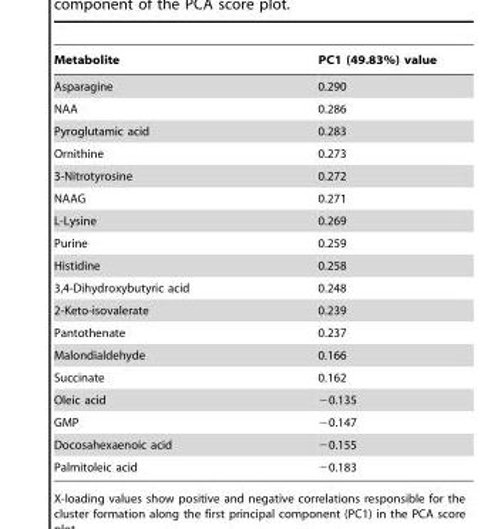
<table><thead><tr><td>Metabolite</td><td>PC1 (49.83%) value</td></tr></thead><tbody><tr><td>Asparagine</td><td>0.290</td></tr><tr><td>NAA</td><td>0.286</td></tr><tr><td>Pyroglutamic acid</td><td>0.283</td></tr><tr><td>Ornithine</td><td>0.273</td></tr><tr><td>3-Nitrotyrosine</td><td>0.272</td></tr><tr><td>NAAG</td><td>0.271</td></tr><tr><td>L-Lysine</td><td>0.269</td></tr><tr><td>Purine</td><td>0.259</td></tr><tr><td>Histidine</td><td>0.258</td></tr><tr><td>3,4-Dihydroxybutyric acid</td><td>0.248</td></tr><tr><td>2-Keto-isovalerate</td><td>0.239</td></tr><tr><td>Pantothenate</td><td>0.237</td></tr><tr><td>Malondialdehyde</td><td>0.166</td></tr><tr><td>Succinate</td><td>0.162</td></tr><tr><td>Oleic acid</td><td>−0.135</td></tr><tr><td>GMP</td><td>−0.147</td></tr><tr><td>Docosahexaenoic acid</td><td>−0.155</td></tr><tr><td>Palmitoleic acid</td><td>−0.183</td></tr></tbody></table>